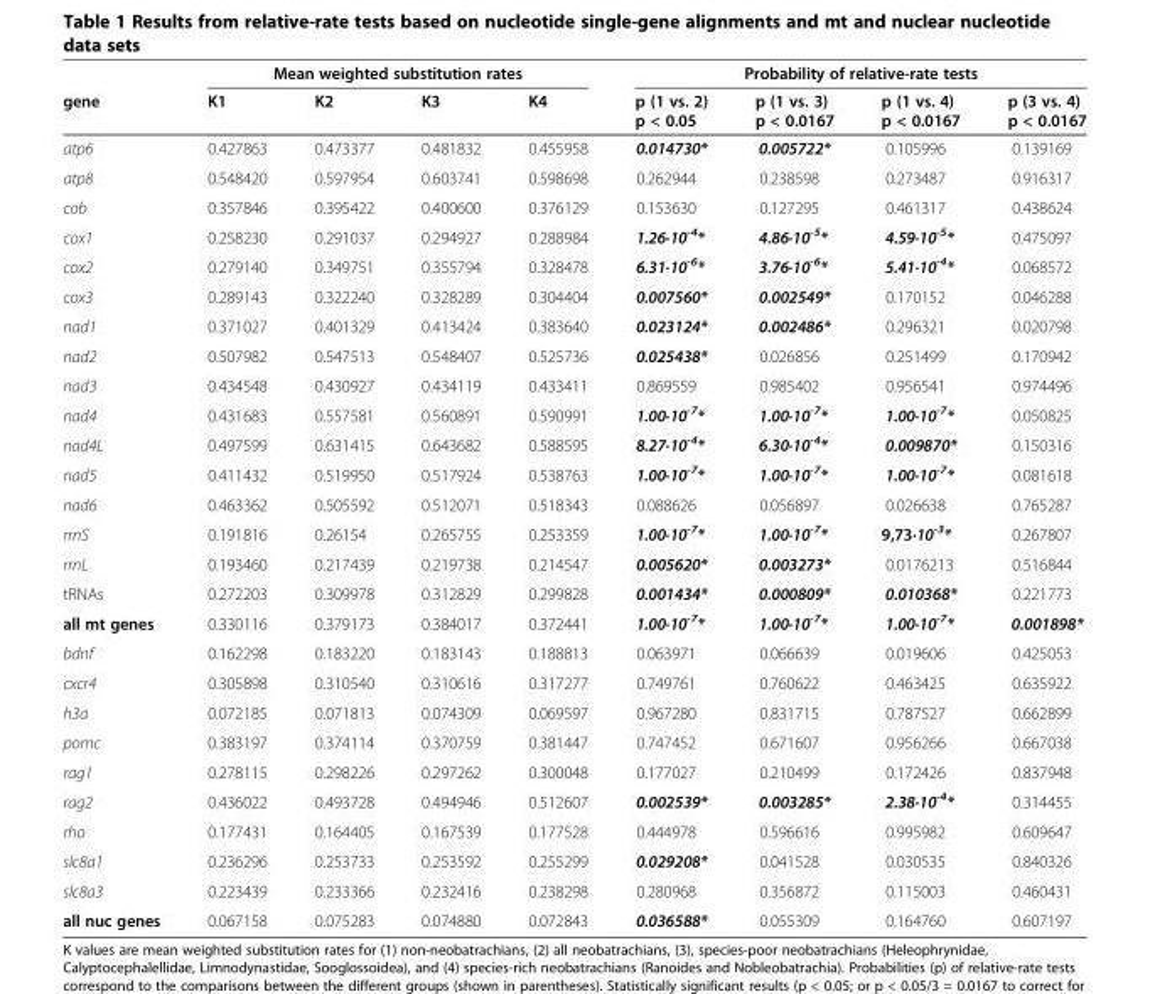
<table><thead><tr><td rowspan="2">gene</td><td colspan="4">Mean weighted substitution rates</td><td colspan="4">Probability of relative-rate tests</td></tr><tr><td>K1</td><td>K2</td><td>K3</td><td>K4</td><td>p (1 vs. 2) p &lt; 0.05</td><td>p (1 vs. 3) p &lt; 0.0167</td><td>p (1 vs. 4) p &lt; 0.0167</td><td>p (3 vs. 4) p &lt; 0.0167</td></tr></thead><tbody><tr><td>atp6</td><td>0.427863</td><td>0.473377</td><td>0.481832</td><td>0.455958</td><td>0.014730*</td><td>0.005722*</td><td>0.105996</td><td>0.139169</td></tr><tr><td>atp8</td><td>0.548420</td><td>0.597954</td><td>0.603741</td><td>0.598698</td><td>0.262944</td><td>0.238598</td><td>0.273487</td><td>0.916317</td></tr><tr><td>cob</td><td>0.357846</td><td>0.395422</td><td>0.400600</td><td>0.376129</td><td>0.153630</td><td>0.127295</td><td>0.461317</td><td>0.438624</td></tr><tr><td>cox1</td><td>0.258230</td><td>0.291037</td><td>0.294927</td><td>0.288984</td><td>1.26·10<sup>-4</sup>*</td><td>4.86·10<sup>-5</sup>*</td><td>4.59·10<sup>-5</sup>*</td><td>0.475097</td></tr><tr><td>cox2</td><td>0.279140</td><td>0.349751</td><td>0.355794</td><td>0.328478</td><td>6.31·10<sup>-6</sup>*</td><td>3.76·10<sup>-6</sup>*</td><td>5.41·10<sup>-4</sup>*</td><td>0.068572</td></tr><tr><td>cox3</td><td>0.289143</td><td>0.322240</td><td>0.328289</td><td>0.304404</td><td>0.007560*</td><td>0.002549*</td><td>0.170152</td><td>0.046288</td></tr><tr><td>nad1</td><td>0.371027</td><td>0.401329</td><td>0.413424</td><td>0.383640</td><td>0.023124*</td><td>0.002486*</td><td>0.296321</td><td>0.020798</td></tr><tr><td>nad2</td><td>0.507982</td><td>0.547513</td><td>0.548407</td><td>0.525736</td><td>0.025438*</td><td>0.026856</td><td>0.251499</td><td>0.170942</td></tr><tr><td>nad3</td><td>0.434548</td><td>0.430927</td><td>0.434119</td><td>0.433411</td><td>0.869559</td><td>0.985402</td><td>0.956541</td><td>0.974496</td></tr><tr><td>nad4</td><td>0.431683</td><td>0.557581</td><td>0.560891</td><td>0.590991</td><td>1.00·10<sup>-7</sup>*</td><td>1.00·10<sup>-7</sup>*</td><td>1.00·10<sup>-7</sup>*</td><td>0.050825</td></tr><tr><td>nad4L</td><td>0.497599</td><td>0.631415</td><td>0.643682</td><td>0.588595</td><td>8.27·10<sup>-4</sup>*</td><td>6.30·10<sup>-4</sup>*</td><td>0.009870*</td><td>0.150316</td></tr><tr><td>nad5</td><td>0.411432</td><td>0.519950</td><td>0.517924</td><td>0.538763</td><td>1.00·10<sup>-7</sup>*</td><td>1.00·10<sup>-7</sup>*</td><td>1.00·10<sup>-7</sup>*</td><td>0.081618</td></tr><tr><td>nad6</td><td>0.463362</td><td>0.505592</td><td>0.512071</td><td>0.518343</td><td>0.088626</td><td>0.056897</td><td>0.026638</td><td>0.765287</td></tr><tr><td>rrnS</td><td>0.191816</td><td>0.26154</td><td>0.265755</td><td>0.253359</td><td>1.00·10<sup>-7</sup>*</td><td>1.00·10<sup>-7</sup>*</td><td>9,73·10<sup>-3</sup>*</td><td>0.267807</td></tr><tr><td>rrnL</td><td>0.193460</td><td>0.217439</td><td>0.219738</td><td>0.214547</td><td>0.005620*</td><td>0.003273*</td><td>0.0176213</td><td>0.516844</td></tr><tr><td>tRNAs</td><td>0.272203</td><td>0.309978</td><td>0.312829</td><td>0.299828</td><td>0.001434*</td><td>0.000809*</td><td>0.010368*</td><td>0.221773</td></tr><tr><td>all mt genes</td><td>0.330116</td><td>0.379173</td><td>0.384017</td><td>0.372441</td><td>1.00·10<sup>-7</sup>*</td><td>1.00·10<sup>-7</sup>*</td><td>1.00·10<sup>-7</sup>*</td><td>0.001898*</td></tr><tr><td>bdnf</td><td>0.162298</td><td>0.183220</td><td>0.183143</td><td>0.188813</td><td>0.063971</td><td>0.066639</td><td>0.019606</td><td>0.425053</td></tr><tr><td>cxcr4</td><td>0.305898</td><td>0.310540</td><td>0.310616</td><td>0.317277</td><td>0.749761</td><td>0.760622</td><td>0.463425</td><td>0.635922</td></tr><tr><td>h3a</td><td>0.072185</td><td>0.071813</td><td>0.074309</td><td>0.069597</td><td>0.967280</td><td>0.831715</td><td>0.787527</td><td>0.662899</td></tr><tr><td>pomc</td><td>0.383197</td><td>0.374114</td><td>0.370759</td><td>0.381447</td><td>0.747452</td><td>0.671607</td><td>0.956266</td><td>0.667038</td></tr><tr><td>rag1</td><td>0.278115</td><td>0.298226</td><td>0.297262</td><td>0.300048</td><td>0.177027</td><td>0.210499</td><td>0.172426</td><td>0.837948</td></tr><tr><td>rag2</td><td>0.436022</td><td>0.493728</td><td>0.494946</td><td>0.512607</td><td>0.002539*</td><td>0.003285*</td><td>2.38·10<sup>-4</sup>*</td><td>0.314455</td></tr><tr><td>rho</td><td>0.177431</td><td>0.164405</td><td>0.167539</td><td>0.177528</td><td>0.444978</td><td>0.596616</td><td>0.995982</td><td>0.609647</td></tr><tr><td>slc8a1</td><td>0.236296</td><td>0.253733</td><td>0.253592</td><td>0.255299</td><td>0.029208*</td><td>0.041528</td><td>0.030535</td><td>0.840326</td></tr><tr><td>slc8a3</td><td>0.223439</td><td>0.233366</td><td>0.232416</td><td>0.238298</td><td>0.280968</td><td>0.356872</td><td>0.115003</td><td>0.460431</td></tr><tr><td>all nuc genes</td><td>0.067158</td><td>0.075283</td><td>0.074880</td><td>0.072843</td><td>0.036588*</td><td>0.055309</td><td>0.164760</td><td>0.607197</td></tr></tbody></table>